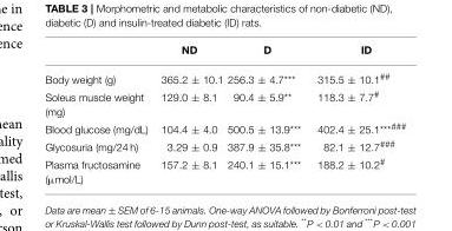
<table><thead><tr><td></td><td>ND</td><td>D</td><td>ID</td></tr></thead><tbody><tr><td>Body weight (g)</td><td>365.2 ± 10.1</td><td>256.3 ± 4.7***</td><td>315.5 ± 10.1<sup>##</sup></td></tr><tr><td>Soleus muscle weight (mg)</td><td>129.0 ± 8.1</td><td>90.4 ± 5.9**</td><td>118.3 ± 7.7<sup>#</sup></td></tr><tr><td>Blood glucose (mg/dL)</td><td>104.4 ± 4.0</td><td>500.5 ± 13.9***</td><td>402.4 ± 25.1<sup>***###</sup></td></tr><tr><td>Glycosuria (mg/24 h)</td><td>3.29 ± 0.9</td><td>387.9 ± 35.8***</td><td>82.1 ± 12.7<sup>###</sup></td></tr><tr><td>Plasma fructosamine (µmol/L)</td><td>157.2 ± 8.1</td><td>240.1 ± 15.1***</td><td>188.2 ± 10.2<sup>#</sup></td></tr></tbody></table>